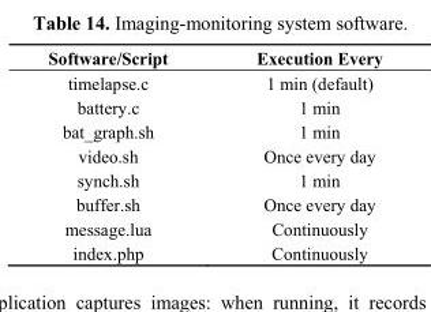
<table><thead><tr><td>Software/Script</td><td>Execution Every</td></tr></thead><tbody><tr><td>timelapse.c</td><td>1 min (default)</td></tr><tr><td>battery.c</td><td>1 min</td></tr><tr><td>bat_graph.sh</td><td>1 min</td></tr><tr><td>video.sh</td><td>Once every day</td></tr><tr><td>synch.sh</td><td>1 min</td></tr><tr><td>buffer.sh</td><td>Once every day</td></tr><tr><td>message.lua</td><td>Continuously</td></tr><tr><td>index.php</td><td>Continuously</td></tr></tbody></table>